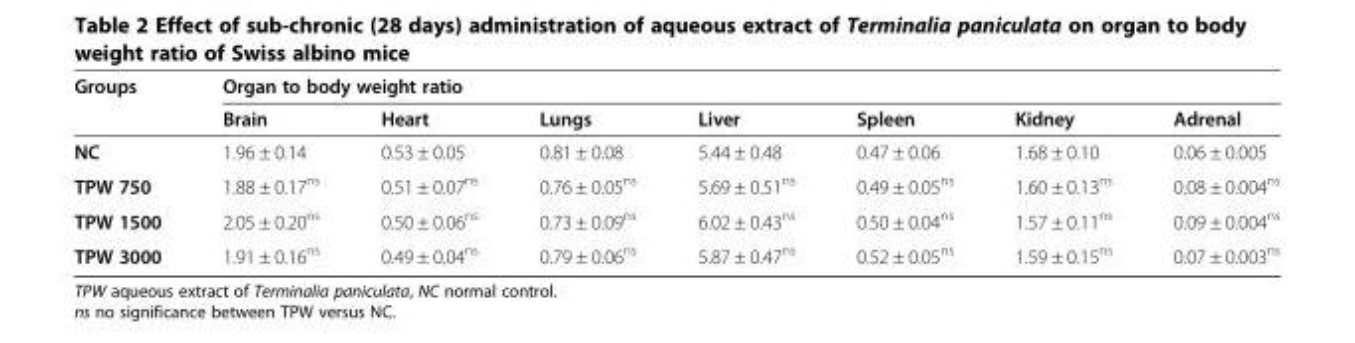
<table><thead><tr><td rowspan="2">Groups</td><td colspan="7">Organ to body weight ratio</td></tr><tr><td>Brain</td><td>Heart</td><td>Lungs</td><td>Liver</td><td>Spleen</td><td>Kidney</td><td>Adrenal</td></tr></thead><tbody><tr><td>NC</td><td>1.96 ± 0.14</td><td>0.53 ± 0.05</td><td>0.81 ± 0.08</td><td>5.44 ± 0.48</td><td>0.47 ± 0.06</td><td>1.68 ± 0.10</td><td>0.06 ± 0.005</td></tr><tr><td>TPW 750</td><td>1.88 ± 0.17<sup>ns</sup></td><td>0.51 ± 0.07<sup>ns</sup></td><td>0.76 ± 0.05<sup>ns</sup></td><td>5.69 ± 0.51<sup>ns</sup></td><td>0.49 ± 0.05<sup>ns</sup></td><td>1.60 ± 0.13<sup>ns</sup></td><td>0.08 ± 0.004<sup>ns</sup></td></tr><tr><td>TPW 1500</td><td>2.05 ± 0.20<sup>ns</sup></td><td>0.50 ± 0.06<sup>ns</sup></td><td>0.73 ± 0.09<sup>ns</sup></td><td>6.02 ± 0.43<sup>ns</sup></td><td>0.50 ± 0.04<sup>ns</sup></td><td>1.57 ± 0.11<sup>ns</sup></td><td>0.09 ± 0.004<sup>ns</sup></td></tr><tr><td>TPW 3000</td><td>1.91 ± 0.16<sup>ns</sup></td><td>0.49 ± 0.04<sup>ns</sup></td><td>0.79 ± 0.06<sup>ns</sup></td><td>5.87 ± 0.47<sup>ns</sup></td><td>0.52 ± 0.05<sup>ns</sup></td><td>1.59 ± 0.15<sup>ns</sup></td><td>0.07 ± 0.003<sup>ns</sup></td></tr></tbody></table>